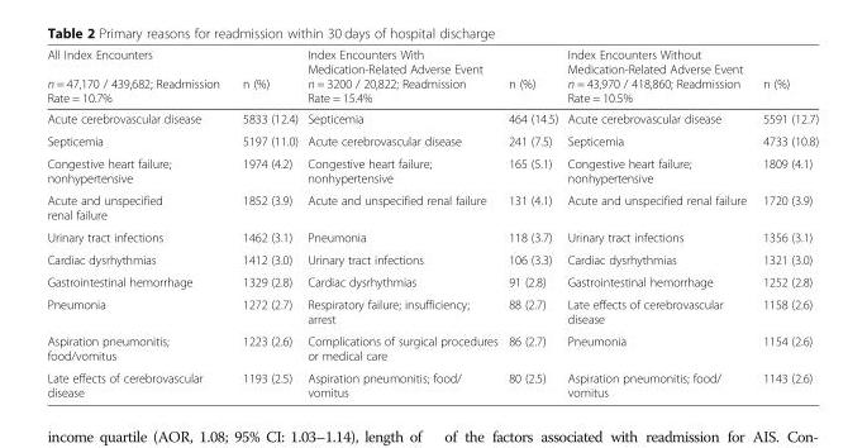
<table><thead><tr><td colspan="2">All Index Encounters</td><td colspan="2">Index Encounters With Medication-Related Adverse Event</td><td colspan="2">Index Encounters Without Medication-Related Adverse Event</td></tr><tr><td>n = 47,170 / 439,682; Readmission Rate = 10.7%</td><td>n (%)</td><td>n = 3200 / 20,822; Readmission Rate = 15.4%</td><td>n (%)</td><td>n = 43,970 / 418,860; Readmission Rate = 10.5%</td><td>n (%)</td></tr></thead><tbody><tr><td>Acute cerebrovascular disease</td><td>5833 (12.4)</td><td>Septicemia</td><td>464 (14.5)</td><td>Acute cerebrovascular disease</td><td>5591 (12.7)</td></tr><tr><td>Septicemia</td><td>5197 (11.0)</td><td>Acute cerebrovascular disease</td><td>241 (7.5)</td><td>Septicemia</td><td>4733 (10.8)</td></tr><tr><td>Congestive heart failure; nonhypertensive</td><td>1974 (4.2)</td><td>Congestive heart failure; nonhypertensive</td><td>165 (5.1)</td><td>Congestive heart failure; nonhypertensive</td><td>1809 (4.1)</td></tr><tr><td>Acute and unspecified renal failure</td><td>1852 (3.9)</td><td>Acute and unspecified renal failure</td><td>131 (4.1)</td><td>Acute and unspecified renal failure</td><td>1720 (3.9)</td></tr><tr><td>Urinary tract infections</td><td>1462 (3.1)</td><td>Pneumonia</td><td>118 (3.7)</td><td>Urinary tract infections</td><td>1356 (3.1)</td></tr><tr><td>Cardiac dysrhythmias</td><td>1412 (3.0)</td><td>Urinary tract infections</td><td>106 (3.3)</td><td>Cardiac dysrhythmias</td><td>1321 (3.0)</td></tr><tr><td>Gastrointestinal hemorrhage</td><td>1329 (2.8)</td><td>Cardiac dysrhythmias</td><td>91 (2.8)</td><td>Gastrointestinal hemorrhage</td><td>1252 (2.8)</td></tr><tr><td>Pneumonia</td><td>1272 (2.7)</td><td>Respiratory failure; insufficiency; arrest</td><td>88 (2.7)</td><td>Late effects of cerebrovascular disease</td><td>1158 (2.6)</td></tr><tr><td>Aspiration pneumonitis; food/vomitus</td><td>1223 (2.6)</td><td>Complications of surgical procedures or medical care</td><td>86 (2.7)</td><td>Pneumonia</td><td>1154 (2.6)</td></tr><tr><td>Late effects of cerebrovascular disease</td><td>1193 (2.5)</td><td>Aspiration pneumonitis; food/ vomitus</td><td>80 (2.5)</td><td>Aspiration pneumonitis; food/ vomitus</td><td>1143 (2.6)</td></tr></tbody></table>